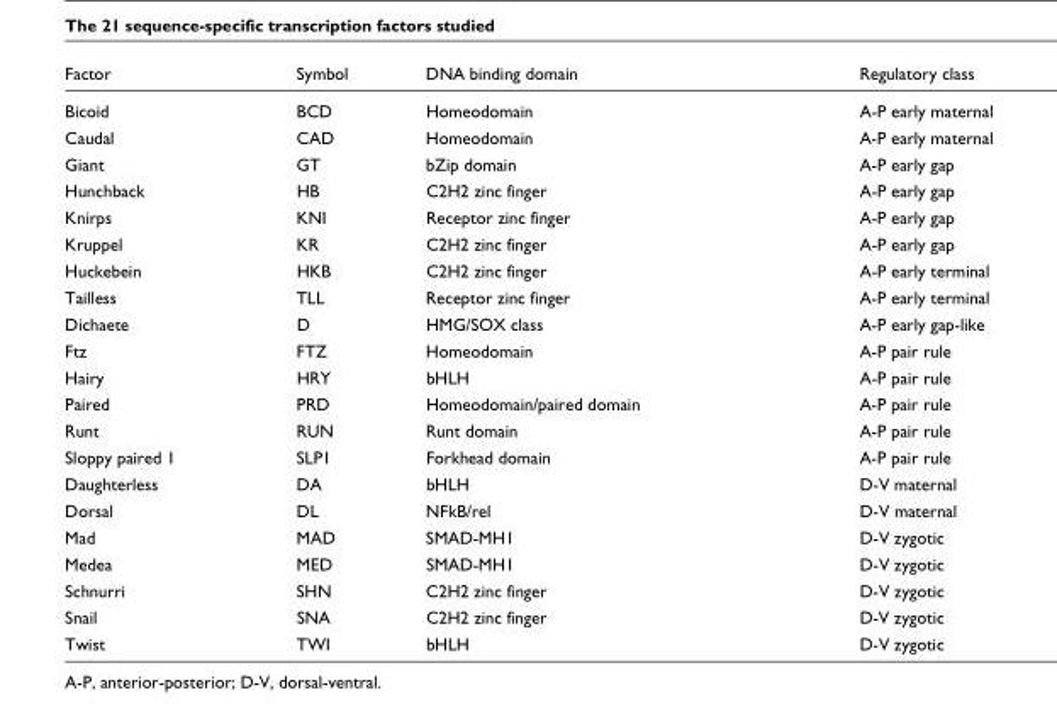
<table><thead><tr><td>Factor</td><td>Symbol</td><td>DNA binding domain</td><td>Regulatory class</td></tr></thead><tbody><tr><td>Bicoid</td><td>BCD</td><td>Homeodomain</td><td>A-P early maternal</td></tr><tr><td>Caudal</td><td>CAD</td><td>Homeodomain</td><td>A-P early maternal</td></tr><tr><td>Giant</td><td>GT</td><td>bZip domain</td><td>A-P early gap</td></tr><tr><td>Hunchback</td><td>HB</td><td>C2H2 zinc finger</td><td>A-P early gap</td></tr><tr><td>Knirps</td><td>KNI</td><td>Receptor zinc finger</td><td>A-P early gap</td></tr><tr><td>Kruppel</td><td>KR</td><td>C2H2 zinc finger</td><td>A-P early gap</td></tr><tr><td>Huckebein</td><td>HKB</td><td>C2H2 zinc finger</td><td>A-P early terminal</td></tr><tr><td>Tailless</td><td>TLL</td><td>Receptor zinc finger</td><td>A-P early terminal</td></tr><tr><td>Dichaete</td><td>D</td><td>HMG/SOX class</td><td>A-P early gap-like</td></tr><tr><td>Ftz</td><td>FTZ</td><td>Homeodomain</td><td>A-P pair rule</td></tr><tr><td>Hairy</td><td>HRY</td><td>bHLH</td><td>A-P pair rule</td></tr><tr><td>Paired</td><td>PRD</td><td>Homeodomain/paired domain</td><td>A-P pair rule</td></tr><tr><td>Runt</td><td>RUN</td><td>Runt domain</td><td>A-P pair rule</td></tr><tr><td>Sloppy paired 1</td><td>SLP1</td><td>Forkhead domain</td><td>A-P pair rule</td></tr><tr><td>Daughterless</td><td>DA</td><td>bHLH</td><td>D-V maternal</td></tr><tr><td>Dorsal</td><td>DL</td><td>NFkB/rel</td><td>D-V maternal</td></tr><tr><td>Mad</td><td>MAD</td><td>SMAD-MH1</td><td>D-V zygotic</td></tr><tr><td>Medea</td><td>MED</td><td>SMAD-MH1</td><td>D-V zygotic</td></tr><tr><td>Schnurri</td><td>SHN</td><td>C2H2 zinc finger</td><td>D-V zygotic</td></tr><tr><td>Snail</td><td>SNA</td><td>C2H2 zinc finger</td><td>D-V zygotic</td></tr><tr><td>Twist</td><td>TWI</td><td>bHLH</td><td>D-V zygotic</td></tr></tbody></table>